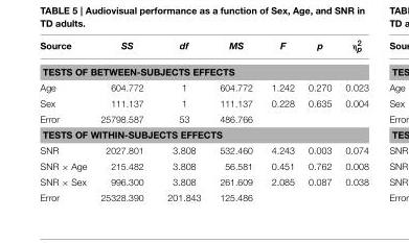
<table><thead><tr><td>Source</td><td>SS</td><td>df</td><td>MS</td><td>F</td><td>p</td><td>η<sup>2</sup><sub>p</sub></td></tr></thead><tbody><tr><td colspan="7">TESTS OF BETWEEN-SUBJECTS EFFECTS</td></tr><tr><td>Age</td><td>604.772</td><td>1</td><td>604.772</td><td>1.242</td><td>0.270</td><td>0.023</td></tr><tr><td>Sex</td><td>111.137</td><td>1</td><td>111.137</td><td>0.228</td><td>0.635</td><td>0.004</td></tr><tr><td>Error</td><td>25798.587</td><td>53</td><td>486.766</td><td></td><td></td><td></td></tr><tr><td colspan="7">TESTS OF WITHIN-SUBJECTS EFFECTS</td></tr><tr><td>SNR</td><td>2027.801</td><td>3.808</td><td>532.460</td><td>4.243</td><td>0.003</td><td>0.074</td></tr><tr><td>SNR × Age</td><td>215.482</td><td>3.808</td><td>56.581</td><td>0.451</td><td>0.762</td><td>0.008</td></tr><tr><td>SNR × Sex</td><td>996.300</td><td>3.808</td><td>261.609</td><td>2.085</td><td>0.087</td><td>0.038</td></tr><tr><td>Error</td><td>25328.390</td><td>201.843</td><td>125.486</td><td></td><td></td><td></td></tr></tbody></table>